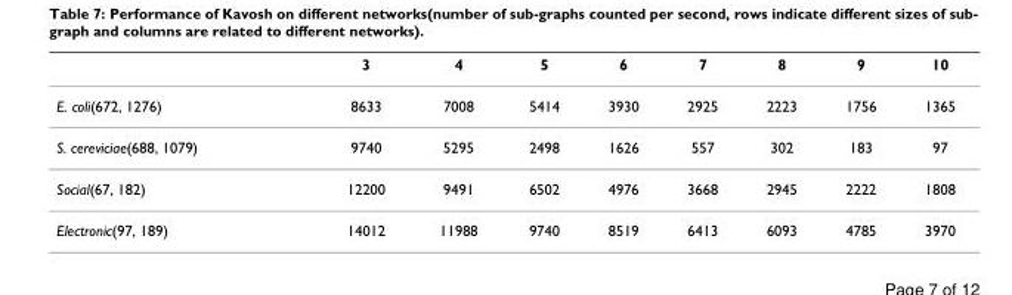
<table><thead><tr><td></td><td>3</td><td>4</td><td>5</td><td>6</td><td>7</td><td>8</td><td>9</td><td>10</td></tr></thead><tbody><tr><td>E. coli(672, 1276)</td><td>8633</td><td>7008</td><td>5414</td><td>3930</td><td>2925</td><td>2223</td><td>1756</td><td>1365</td></tr><tr><td>S. cereviciae(688, 1079)</td><td>9740</td><td>5295</td><td>2498</td><td>1626</td><td>557</td><td>302</td><td>183</td><td>97</td></tr><tr><td>Social(67, 182)</td><td>12200</td><td>9491</td><td>6502</td><td>4976</td><td>3668</td><td>2945</td><td>2222</td><td>1808</td></tr><tr><td>Electronic(97, 189)</td><td>14012</td><td>11988</td><td>9740</td><td>8519</td><td>6413</td><td>6093</td><td>4785</td><td>3970</td></tr></tbody></table>